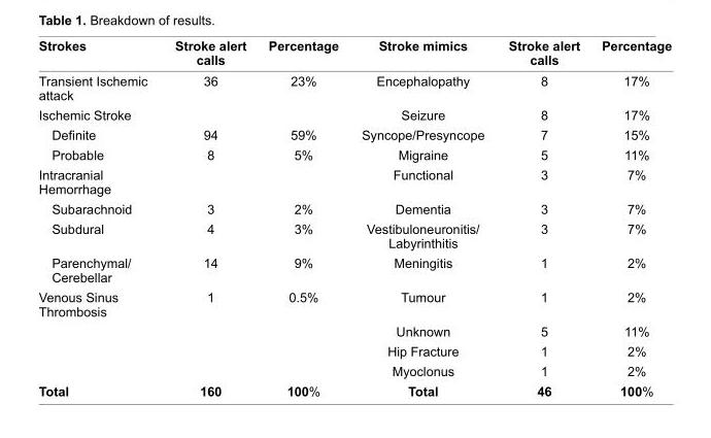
<table><thead><tr><td>Strokes</td><td>Stroke alert calls</td><td>Percentage</td><td>Stroke mimics</td><td>Stroke alert calls</td><td>Percentage</td></tr></thead><tbody><tr><td>Transient Ischemic attack</td><td>36</td><td>23%</td><td>Encephalopathy</td><td>8</td><td>17%</td></tr><tr><td>Ischemic Stroke</td><td></td><td></td><td>Seizure</td><td>8</td><td>17%</td></tr><tr><td>Defi nite</td><td>94</td><td>59%</td><td>Syncope/Presyncope</td><td>7</td><td>15%</td></tr><tr><td>Probable</td><td>8</td><td>5%</td><td>Migraine</td><td>5</td><td>11%</td></tr><tr><td>Intracranial Hemorrhage</td><td></td><td></td><td>Functional</td><td>3</td><td>7%</td></tr><tr><td>Subarachnoid</td><td>3</td><td>2%</td><td>Dementia</td><td>3</td><td>7%</td></tr><tr><td>Subdural</td><td>4</td><td>3%</td><td>Vestibuloneuronitis/ Labyrinthitis</td><td>3</td><td>7%</td></tr><tr><td>Parenchymal/ Cerebellar</td><td>14</td><td>9%</td><td>Meningitis</td><td>1</td><td>2%</td></tr><tr><td rowspan="4">Venous Sinus Thrombosis</td><td>1</td><td>0.5%</td><td>Tumour</td><td>1</td><td>2%</td></tr><tr><td></td><td></td><td>Unknown</td><td>5</td><td>11%</td></tr><tr><td></td><td></td><td>Hip Fracture</td><td>1</td><td>2%</td></tr><tr><td></td><td></td><td>Myoclonus</td><td>1</td><td>2%</td></tr><tr><td>Total</td><td>160</td><td>100%</td><td>Total</td><td>46</td><td>100%</td></tr></tbody></table>